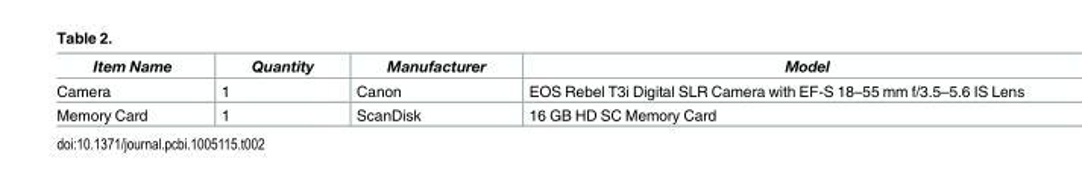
<table><thead><tr><td>Item Name</td><td>Quantity</td><td>Manufacturer</td><td>Model</td></tr></thead><tbody><tr><td>Camera</td><td>1</td><td>Canon</td><td>EOS Rebel T3i Digital SLR Camera with EF-S 18–55 mm f/3.5–5.6 IS Lens</td></tr><tr><td>Memory Card</td><td>1</td><td>ScanDisk</td><td>16 GB HD SC Memory Card</td></tr></tbody></table>